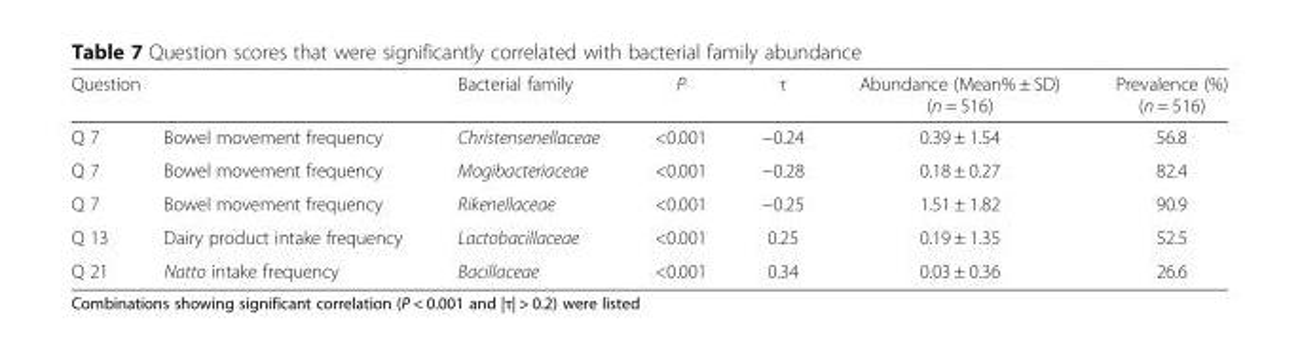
<table><thead><tr><td colspan="2">Question</td><td rowspan="2">Bacterial family Christensenellaceae</td><td rowspan="2">P &lt;0.001</td><td rowspan="2">τ −0.24</td><td rowspan="2">Abundance (Mean% ± SD) (n = 516) 0.39 ± 1.54</td><td rowspan="2">Prevalence (%) (n = 516) 56.8</td></tr><tr><td>Q 7</td><td>Bowel movement frequency</td></tr></thead><tbody><tr><td>Q 7</td><td>Bowel movement frequency</td><td>Mogibacteriaceae</td><td>&lt;0.001</td><td>−0.28</td><td>0.18 ± 0.27</td><td>82.4</td></tr><tr><td>Q 7</td><td>Bowel movement frequency</td><td>Rikenellaceae</td><td>&lt;0.001</td><td>−0.25</td><td>1.51 ± 1.82</td><td>90.9</td></tr><tr><td>Q 13</td><td>Dairy product intake frequency</td><td>Lactobacillaceae</td><td>&lt;0.001</td><td>0.25</td><td>0.19 ± 1.35</td><td>52.5</td></tr><tr><td>Q 21</td><td>Natto intake frequency</td><td>Bacillaceae</td><td>&lt;0.001</td><td>0.34</td><td>0.03 ± 0.36</td><td>26.6</td></tr></tbody></table>